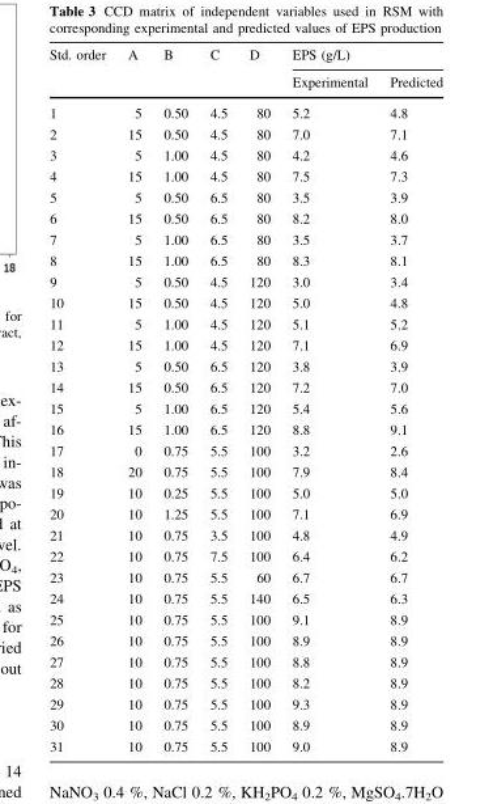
<table><thead><tr><td rowspan="2">Std. order</td><td rowspan="2">A</td><td rowspan="2">B</td><td rowspan="2">C</td><td rowspan="2">D</td><td colspan="2">EPS (g/L)</td></tr><tr><td>Experimental</td><td>Predicted</td></tr></thead><tbody><tr><td>1</td><td>5</td><td>0.50</td><td>4.5</td><td>80</td><td>5.2</td><td>4.8</td></tr><tr><td>2</td><td>15</td><td>0.50</td><td>4.5</td><td>80</td><td>7.0</td><td>7.1</td></tr><tr><td>3</td><td>5</td><td>1.00</td><td>4.5</td><td>80</td><td>4.2</td><td>4.6</td></tr><tr><td>4</td><td>15</td><td>1.00</td><td>4.5</td><td>80</td><td>7.5</td><td>7.3</td></tr><tr><td>5</td><td>5</td><td>0.50</td><td>6.5</td><td>80</td><td>3.5</td><td>3.9</td></tr><tr><td>6</td><td>15</td><td>0.50</td><td>6.5</td><td>80</td><td>8.2</td><td>8.0</td></tr><tr><td>7</td><td>5</td><td>1.00</td><td>6.5</td><td>80</td><td>3.5</td><td>3.7</td></tr><tr><td>8</td><td>15</td><td>1.00</td><td>6.5</td><td>80</td><td>8.3</td><td>8.1</td></tr><tr><td>9</td><td>5</td><td>0.50</td><td>4.5</td><td>120</td><td>3.0</td><td>3.4</td></tr><tr><td>10</td><td>15</td><td>0.50</td><td>4.5</td><td>120</td><td>5.0</td><td>4.8</td></tr><tr><td>11</td><td>5</td><td>1.00</td><td>4.5</td><td>120</td><td>5.1</td><td>5.2</td></tr><tr><td>12</td><td>15</td><td>1.00</td><td>4.5</td><td>120</td><td>7.1</td><td>6.9</td></tr><tr><td>13</td><td>5</td><td>0.50</td><td>6.5</td><td>120</td><td>3.8</td><td>3.9</td></tr><tr><td>14</td><td>15</td><td>0.50</td><td>6.5</td><td>120</td><td>7.2</td><td>7.0</td></tr><tr><td>15</td><td>5</td><td>1.00</td><td>6.5</td><td>120</td><td>5.4</td><td>5.6</td></tr><tr><td>16</td><td>15</td><td>1.00</td><td>6.5</td><td>120</td><td>8.8</td><td>9.1</td></tr><tr><td>17</td><td>0</td><td>0.75</td><td>5.5</td><td>100</td><td>3.2</td><td>2.6</td></tr><tr><td>18</td><td>20</td><td>0.75</td><td>5.5</td><td>100</td><td>7.9</td><td>8.4</td></tr><tr><td>19</td><td>10</td><td>0.25</td><td>5.5</td><td>100</td><td>5.0</td><td>5.0</td></tr><tr><td>20</td><td>10</td><td>1.25</td><td>5.5</td><td>100</td><td>7.1</td><td>6.9</td></tr><tr><td>21</td><td>10</td><td>0.75</td><td>3.5</td><td>100</td><td>4.8</td><td>4.9</td></tr><tr><td>22</td><td>10</td><td>0.75</td><td>7.5</td><td>100</td><td>6.4</td><td>6.2</td></tr><tr><td>23</td><td>10</td><td>0.75</td><td>5.5</td><td>60</td><td>6.7</td><td>6.7</td></tr><tr><td>24</td><td>10</td><td>0.75</td><td>5.5</td><td>140</td><td>6.5</td><td>6.3</td></tr><tr><td>25</td><td>10</td><td>0.75</td><td>5.5</td><td>100</td><td>9.1</td><td>8.9</td></tr><tr><td>26</td><td>10</td><td>0.75</td><td>5.5</td><td>100</td><td>8.9</td><td>8.9</td></tr><tr><td>27</td><td>10</td><td>0.75</td><td>5.5</td><td>100</td><td>8.8</td><td>8.9</td></tr><tr><td>28</td><td>10</td><td>0.75</td><td>5.5</td><td>100</td><td>8.2</td><td>8.9</td></tr><tr><td>29</td><td>10</td><td>0.75</td><td>5.5</td><td>100</td><td>9.3</td><td>8.9</td></tr><tr><td>30</td><td>10</td><td>0.75</td><td>5.5</td><td>100</td><td>8.9</td><td>8.9</td></tr><tr><td>31</td><td>10</td><td>0.75</td><td>5.5</td><td>100</td><td>9.0</td><td>8.9</td></tr></tbody></table>